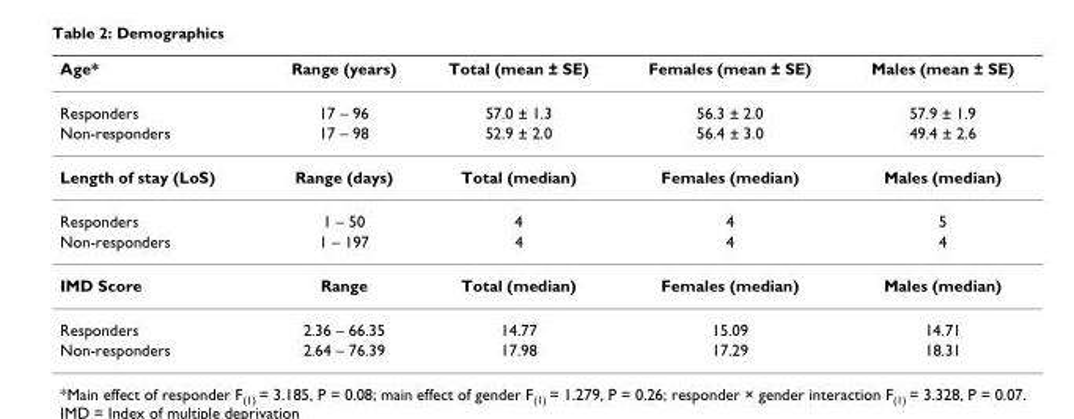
<table><thead><tr><td>Age*</td><td>Range (years)</td><td>Total (mean ± SE)</td><td>Females (mean ± SE)</td><td>Males (mean ± SE)</td></tr></thead><tbody><tr><td>Responders</td><td>17 – 96</td><td>57.0 ± 1.3</td><td>56.3 ± 2.0</td><td>57.9 ± 1.9</td></tr><tr><td>Non-responders</td><td>17 – 98</td><td>52.9 ± 2.0</td><td>56.4 ± 3.0</td><td>49.4 ± 2.6</td></tr><tr><td>Length of stay (LoS)</td><td>Range (days)</td><td>Total (median)</td><td>Females (median)</td><td>Males (median)</td></tr><tr><td>Responders</td><td>1 – 50</td><td>4</td><td>4</td><td>5</td></tr><tr><td>Non-responders</td><td>1 – 197</td><td>4</td><td>4</td><td>4</td></tr><tr><td>IMD Score</td><td>Range</td><td>Total (median)</td><td>Females (median)</td><td>Males (median)</td></tr><tr><td>Responders</td><td>2.36 – 66.35</td><td>14.77</td><td>15.09</td><td>14.71</td></tr><tr><td>Non-responders</td><td>2.64 – 76.39</td><td>17.98</td><td>17.29</td><td>18.31</td></tr></tbody></table>